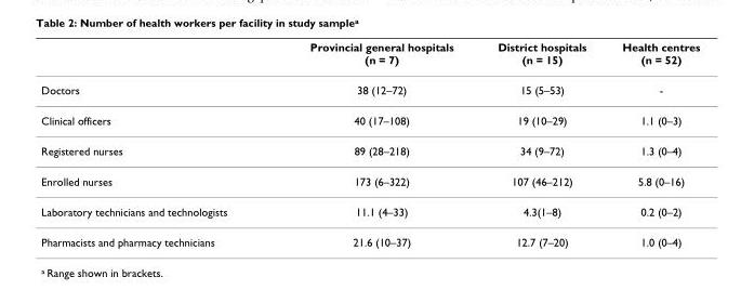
<table><thead><tr><td></td><td>Provincial general hospitals (n = 7)</td><td>District hospitals (n = 15)</td><td>Health centres (n = 52)</td></tr></thead><tbody><tr><td>Doctors</td><td>38 (12–72)</td><td>15 (5–53)</td><td>-</td></tr><tr><td>Clinical officers</td><td>40 (17–108)</td><td>19 (10–29)</td><td>1.1 (0–3)</td></tr><tr><td>Registered nurses</td><td>89 (28–218)</td><td>34 (9–72)</td><td>1.3 (0–4)</td></tr><tr><td>Enrolled nurses</td><td>173 (6–322)</td><td>107 (46–212)</td><td>5.8 (0–16)</td></tr><tr><td>Laboratory technicians and technologists</td><td>11.1 (4–33)</td><td>4.3(1–8)</td><td>0.2 (0–2)</td></tr><tr><td>Pharmacists and pharmacy technicians</td><td>21.6 (10–37)</td><td>12.7 (7–20)</td><td>1.0 (0–4)</td></tr></tbody></table>